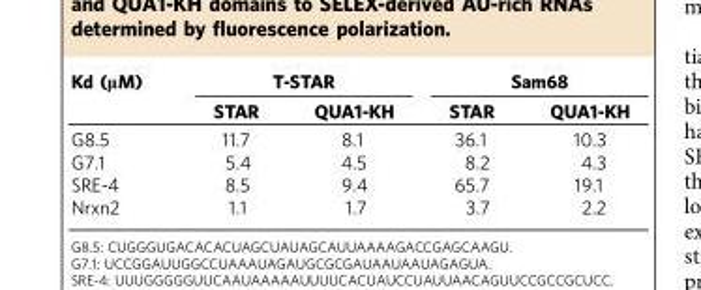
<table><thead><tr><td rowspan="2">Kd (μM)</td><td colspan="2">T-STAR</td><td colspan="2">Sam68</td></tr><tr><td>STAR</td><td>QUA1-KH</td><td>STAR</td><td>QUA1-KH</td></tr></thead><tbody><tr><td>G8.5</td><td>11.7</td><td>8.1</td><td>36.1</td><td>10.3</td></tr><tr><td>G7.1</td><td>5.4</td><td>4.5</td><td>8.2</td><td>4.3</td></tr><tr><td>SRE-4</td><td>8.5</td><td>9.4</td><td>65.7</td><td>19.1</td></tr><tr><td>Nrxn2</td><td>1.1</td><td>1.7</td><td>3.7</td><td>2.2</td></tr></tbody></table>